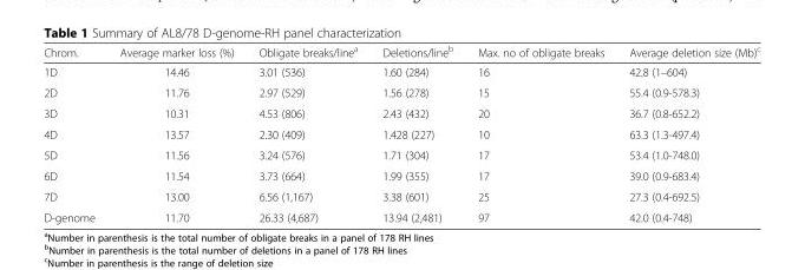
<table><thead><tr><td>Chrom.</td><td>Average marker loss (%)</td><td>Obligate breaks/line<sup>a</sup></td><td>Deletions/line<sup>b</sup></td><td>Max. no of obligate breaks</td><td>Average deletion size (Mb)<sup>c</sup></td></tr></thead><tbody><tr><td>1D</td><td>14.46</td><td>3.01 (536)</td><td>1.60 (284)</td><td>16</td><td>42.8 (1–604)</td></tr><tr><td>2D</td><td>11.76</td><td>2.97 (529)</td><td>1.56 (278)</td><td>15</td><td>55.4 (0.9-578.3)</td></tr><tr><td>3D</td><td>10.31</td><td>4.53 (806)</td><td>2.43 (432)</td><td>20</td><td>36.7 (0.8-652.2)</td></tr><tr><td>4D</td><td>13.57</td><td>2.30 (409)</td><td>1.428 (227)</td><td>10</td><td>63.3 (1.3-497.4)</td></tr><tr><td>5D</td><td>11.56</td><td>3.24 (576)</td><td>1.71 (304)</td><td>17</td><td>53.4 (1.0-748.0)</td></tr><tr><td>6D</td><td>11.54</td><td>3.73 (664)</td><td>1.99 (355)</td><td>17</td><td>39.0 (0.9-683.4)</td></tr><tr><td>7D</td><td>13.00</td><td>6.56 (1,167)</td><td>3.38 (601)</td><td>25</td><td>27.3 (0.4-692.5)</td></tr><tr><td>D-genome</td><td>11.70</td><td>26.33 (4,687)</td><td>13.94 (2,481)</td><td>97</td><td>42.0 (0.4-748)</td></tr></tbody></table>